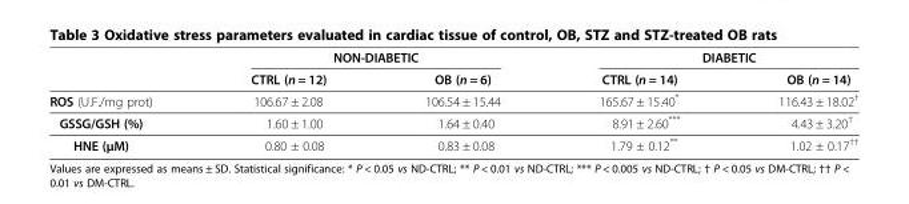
<table><thead><tr><td rowspan="2"></td><td colspan="2">NON-DIABETIC</td><td colspan="2">DIABETIC</td></tr><tr><td>CTRL (n = 12)</td><td>OB (n = 6)</td><td>CTRL (n = 14)</td><td>OB (n = 14)</td></tr></thead><tbody><tr><td>ROS (U.F./mg prot)</td><td>106.67 ± 2.08</td><td>106.54 ± 15.44</td><td>165.67 ± 15.40*</td><td>116.43 ± 18.02<sup>†</sup></td></tr><tr><td>GSSG/GSH (%)</td><td>1.60 ± 1.00</td><td>1.64 ± 0.40</td><td>8.91 ± 2.60***</td><td>4.43 ± 3.20<sup>†</sup></td></tr><tr><td>HNE (μM)</td><td>0.80 ± 0.08</td><td>0.83 ± 0.08</td><td>1.79 ± 0.12**</td><td>1.02 ± 0.17<sup>††</sup></td></tr></tbody></table>